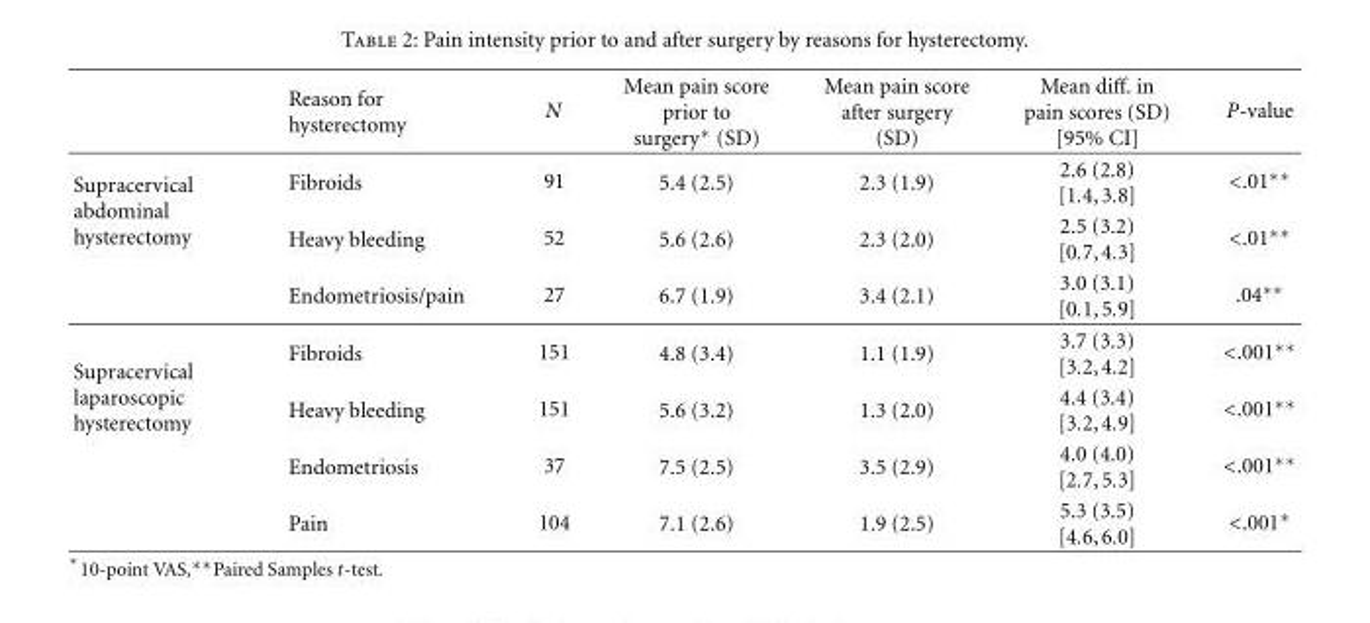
<table><thead><tr><td></td><td>Reason for hysterectomy</td><td>N</td><td>Mean pain score prior to surgery∗ (SD)</td><td>Mean pain score after surgery (SD)</td><td>Mean diff. in pain scores (SD) [95% CI]</td><td>P-value</td></tr></thead><tbody><tr><td rowspan="3">Supracervical abdominal hysterectomy</td><td>Fibroids</td><td>91</td><td>5.4 (2.5)</td><td>2.3 (1.9)</td><td>2.6 (2.8) [1.4,3.8]</td><td>&lt;.01∗∗</td></tr><tr><td>Heavy bleeding</td><td>52</td><td>5.6 (2.6)</td><td>2.3 (2.0)</td><td>2.5 (3.2) [0.7,4.3]</td><td>&lt;.01∗∗</td></tr><tr><td>Endometriosis/pain</td><td>27</td><td>6.7 (1.9)</td><td>3.4 (2.1)</td><td>3.0 (3.1) [0.1,5.9]</td><td>.04∗∗</td></tr><tr><td rowspan="4">Supracervical laparoscopic hysterectomy</td><td>Fibroids</td><td>151</td><td>4.8 (3.4)</td><td>1.1 (1.9)</td><td>3.7 (3.3) [3.2,4.2]</td><td>&lt;.001∗∗</td></tr><tr><td>Heavy bleeding</td><td>151</td><td>5.6 (3.2)</td><td>1.3 (2.0)</td><td>4.4 (3.4) [3.2,4.9]</td><td>&lt;.001∗∗</td></tr><tr><td>Endometriosis</td><td>37</td><td>7.5 (2.5)</td><td>3.5 (2.9)</td><td>4.0 (4.0) [2.7,5.3]</td><td>&lt;.001∗∗</td></tr><tr><td>Pain</td><td>104</td><td>7.1 (2.6)</td><td>1.9 (2.5)</td><td>5.3 (3.5) [4.6,6.0]</td><td>&lt;.001∗</td></tr></tbody></table>